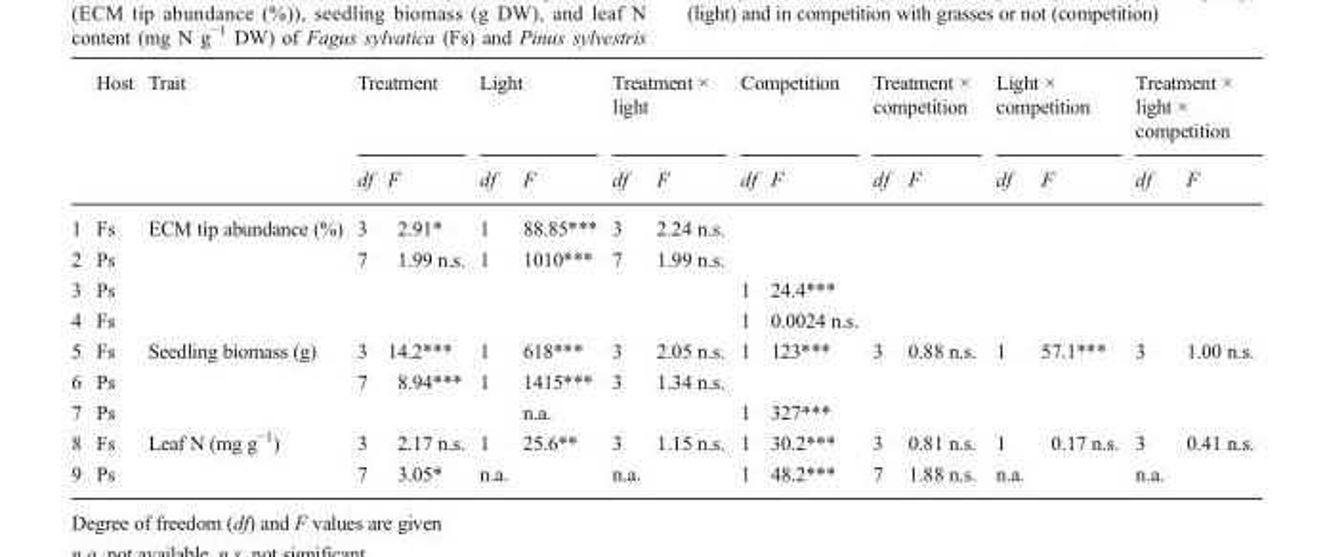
<table><thead><tr><td rowspan="2"></td><td rowspan="2">Host</td><td rowspan="2">Trait</td><td colspan="2">Treatment</td><td colspan="2">Light</td><td colspan="2">Treatment × light</td><td colspan="2">Competition</td><td colspan="2">Treatment × competition</td><td colspan="2">Light × competition</td><td colspan="2">Treatment × light × competition</td></tr><tr><td>df</td><td>F</td><td>df</td><td>F</td><td>df</td><td>F</td><td>df</td><td>F</td><td>df</td><td>F</td><td>df</td><td>F</td><td>df</td><td>F</td></tr></thead><tbody><tr><td>1</td><td>Fs</td><td rowspan="4">ECM tip abundance (%)</td><td>3</td><td>2.91*</td><td>1</td><td>88.85***</td><td>3</td><td>2.24 n.s.</td><td></td><td></td><td></td><td></td><td></td><td></td><td></td><td></td></tr><tr><td>2</td><td>Ps</td><td>7</td><td>1.99 n.s.</td><td>1</td><td>1010***</td><td>7</td><td>1.99 n.s.</td><td></td><td></td><td></td><td></td><td></td><td></td><td></td><td></td></tr><tr><td>3</td><td>Ps</td><td></td><td></td><td></td><td></td><td></td><td></td><td>1</td><td>24.4***</td><td></td><td></td><td></td><td></td><td></td><td></td></tr><tr><td>4</td><td>Fs</td><td></td><td></td><td></td><td></td><td></td><td></td><td>1</td><td>0.0024 n.s.</td><td></td><td></td><td></td><td></td><td></td><td></td></tr><tr><td>5</td><td>Fs</td><td rowspan="3">Seedling biomass (g)</td><td>3</td><td>14.2***</td><td>1</td><td>618***</td><td>3</td><td>2.05 n.s.</td><td>1</td><td>123***</td><td>3</td><td>0.88 n.s.</td><td>1</td><td>57.1***</td><td>3</td><td>1.00 n.s.</td></tr><tr><td>6</td><td>Ps</td><td>7</td><td>8.94***</td><td>1</td><td>1415***</td><td>3</td><td>1.34 n.s.</td><td></td><td></td><td></td><td></td><td></td><td></td><td></td><td></td></tr><tr><td>7</td><td>Ps</td><td></td><td></td><td></td><td>n.a.</td><td></td><td></td><td>1</td><td>327***</td><td></td><td></td><td></td><td></td><td></td><td></td></tr><tr><td>8</td><td>Fs</td><td rowspan="2">Leaf N (mg g<sup>−1</sup>)</td><td>3</td><td>2.17 n.s.</td><td>1</td><td>25.6**</td><td>3</td><td>1.15 n.s.</td><td>1</td><td>30.2***</td><td>3</td><td>0.81 n.s.</td><td>1</td><td>0.17 n.s.</td><td>3</td><td>0.41 n.s.</td></tr><tr><td>9</td><td>Ps</td><td>7</td><td>3.05*</td><td>n.a.</td><td></td><td>n.a.</td><td></td><td>1</td><td>48.2***</td><td>7</td><td>1.88 n.s.</td><td>n.a.</td><td></td><td>n.a.</td><td></td></tr></tbody></table>